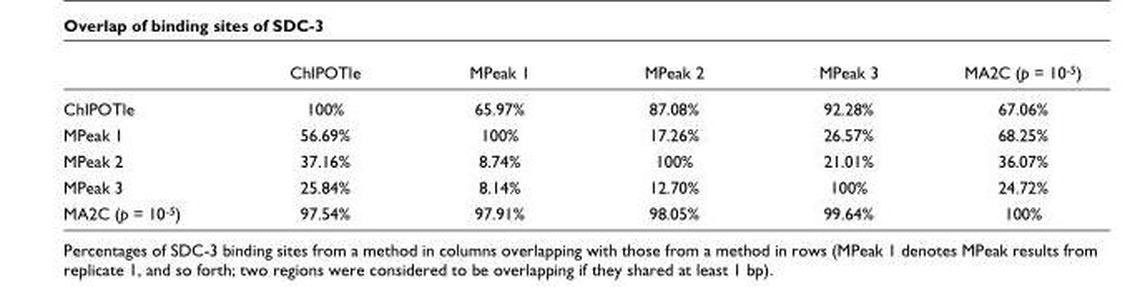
<table><thead><tr><td></td><td>ChIPOTle</td><td>MPeak 1</td><td>MPeak 2</td><td>MPeak 3</td><td>MA2C (p = 10<sup>-5</sup>)</td></tr></thead><tbody><tr><td>ChIPOTle</td><td>100%</td><td>65.97%</td><td>87.08%</td><td>92.28%</td><td>67.06%</td></tr><tr><td>MPeak 1</td><td>56.69%</td><td>100%</td><td>17.26%</td><td>26.57%</td><td>68.25%</td></tr><tr><td>MPeak 2</td><td>37.16%</td><td>8.74%</td><td>100%</td><td>21.01%</td><td>36.07%</td></tr><tr><td>MPeak 3</td><td>25.84%</td><td>8.14%</td><td>12.70%</td><td>100%</td><td>24.72%</td></tr><tr><td>MA2C (p = 10<sup>-5</sup>)</td><td>97.54%</td><td>97.91%</td><td>98.05%</td><td>99.64%</td><td>100%</td></tr></tbody></table>